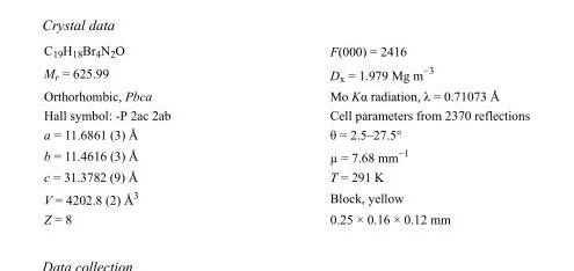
<table><tbody><tr><td>C<sub>19</sub>H<sub>18</sub>Br<sub>4</sub>N<sub>2</sub>O</td><td>F(000) = 2416</td></tr><tr><td>M<sub>r</sub> = 625.99</td><td>D<sub>x</sub> = 1.979 Mg m<sup>−3</sup></td></tr><tr><td>Orthorhombic, Pbca</td><td>Mo Kα radiation, λ = 0.71073 Å</td></tr><tr><td>Hall symbol: -P 2ac 2ab</td><td>Cell parameters from 2370 reflections</td></tr><tr><td>a = 11.6861 (3) Å</td><td>θ = 2.5–27.5°</td></tr><tr><td>b = 11.4616 (3) Å</td><td>µ = 7.68 mm<sup>−1</sup></td></tr><tr><td>c = 31.3782 (9) Å</td><td>T = 291 K</td></tr><tr><td>V = 4202.8 (2) Å<sup>3</sup></td><td>Block, yellow</td></tr><tr><td>Z = 8</td><td>0.25 × 0.16 × 0.12 mm</td></tr></tbody></table>